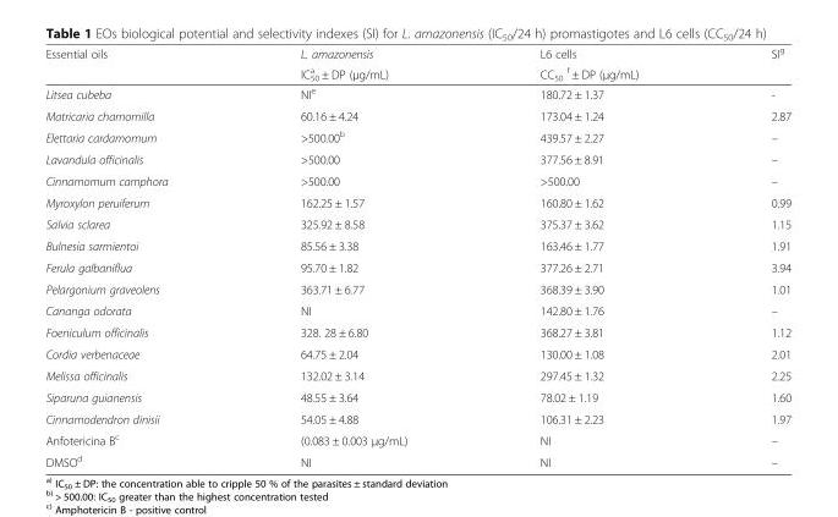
<table><thead><tr><td rowspan="2">Essential oils</td><td rowspan="2">L. amazonensis IC<sub>50</sub> <sup>a</sup> ± DP (μg/mL)</td><td rowspan="2">L6 cells CC<sub>50</sub> <sup>f</sup> ± DP (μg/mL)</td><td rowspan="2">SI<sup>g</sup></td></tr><tr></tr></thead><tbody><tr><td>Litsea cubeba</td><td>NI<sup>e</sup></td><td>180.72 ± 1.37</td><td>-</td></tr><tr><td>Matricaria chamomilla</td><td>60.16 ± 4.24</td><td>173.04 ± 1.24</td><td>2.87</td></tr><tr><td>Elettaria cardamomum</td><td>&gt;500.00<sup>b</sup></td><td>439.57 ± 2.27</td><td>–</td></tr><tr><td>Lavandula officinalis</td><td>&gt;500.00</td><td>377.56 ± 8.91</td><td>–</td></tr><tr><td>Cinnamomum camphora</td><td>&gt;500.00</td><td>&gt;500.00</td><td>–</td></tr><tr><td>Myroxylon peruiferum</td><td>162.25 ± 1.57</td><td>160.80 ± 1.62</td><td>0.99</td></tr><tr><td>Salvia sclarea</td><td>325.92 ± 8.58</td><td>375.37 ± 3.62</td><td>1.15</td></tr><tr><td>Bulnesia sarmientoi</td><td>85.56 ± 3.38</td><td>163.46 ± 1.77</td><td>1.91</td></tr><tr><td>Ferula galbaniflua</td><td>95.70 ± 1.82</td><td>377.26 ± 2.71</td><td>3.94</td></tr><tr><td>Pelargonium graveolens</td><td>363.71 ± 6.77</td><td>368.39 ± 3.90</td><td>1.01</td></tr><tr><td>Cananga odorata</td><td>NI</td><td>142.80 ± 1.76</td><td>–</td></tr><tr><td>Foeniculum officinalis</td><td>328. 28 ± 6.80</td><td>368.27 ± 3.81</td><td>1.12</td></tr><tr><td>Cordia verbenaceae</td><td>64.75 ± 2.04</td><td>130.00 ± 1.08</td><td>2.01</td></tr><tr><td>Melissa officinalis</td><td>132.02 ± 3.14</td><td>297.45 ± 1.32</td><td>2.25</td></tr><tr><td>Siparuna guianensis</td><td>48.55 ± 3.64</td><td>78.02 ± 1.19</td><td>1.60</td></tr><tr><td>Cinnamodendron dinisii</td><td>54.05 ± 4.88</td><td>106.31 ± 2.23</td><td>1.97</td></tr><tr><td>Anfotericina B<sup>c</sup></td><td>(0.083 ± 0.003 μg/mL)</td><td>NI</td><td>–</td></tr><tr><td>DMSO<sup>d</sup></td><td>NI</td><td>NI</td><td>–</td></tr></tbody></table>